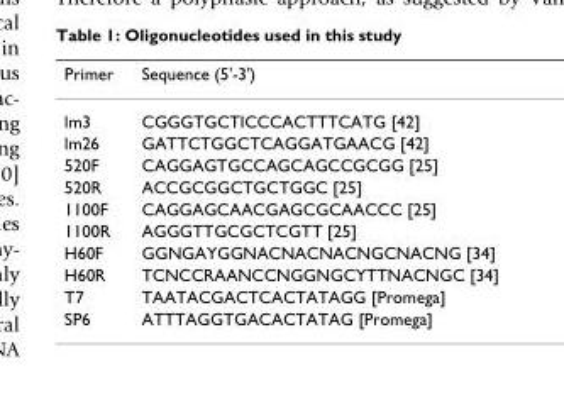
<table><thead><tr><td>Primer</td><td>Sequence (5&#x27;-3&#x27;)</td></tr></thead><tbody><tr><td>lm3</td><td>CGGGTGCTICCCACTTTCATG [42]</td></tr><tr><td>lm26</td><td>GATTCTGGCTCAGGATGAACG [42]</td></tr><tr><td>520F</td><td>CAGGAGTGCCAGCAGCCGCGG [25]</td></tr><tr><td>520R</td><td>ACCGCGGCTGCTGGC [25]</td></tr><tr><td>1100F</td><td>CAGGAGCAACGAGCGCAACCC [25]</td></tr><tr><td>1100R</td><td>AGGGTTGCGCTCGTT [25]</td></tr><tr><td>H60F</td><td>GGNGAYGGNACNACNACNGCNACNG [34]</td></tr><tr><td>H60R</td><td>TCNCCRAANCCNGGNGCYTTNACNGC [34]</td></tr><tr><td>T7</td><td>TAATACGACTCACTATAGG [Promega]</td></tr><tr><td>SP6</td><td>ATTTAGGTGACACTATAG [Promega]</td></tr></tbody></table>